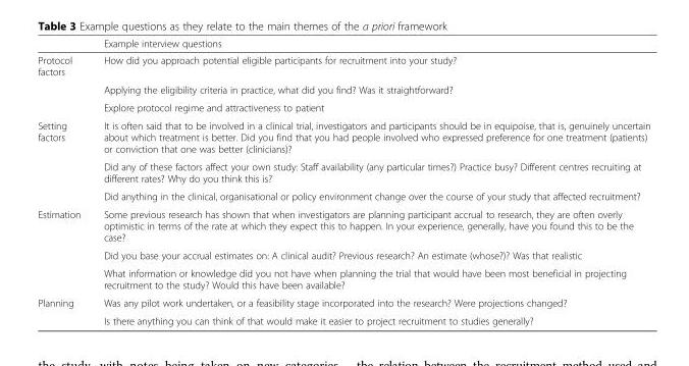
<table><thead><tr><td></td><td>Example interview questions</td></tr></thead><tbody><tr><td rowspan="3">Protocol factors</td><td>How did you approach potential eligible participants for recruitment into your study?</td></tr><tr><td>Applying the eligibility criteria in practice, what did you find? Was it straightforward?</td></tr><tr><td>Explore protocol regime and attractiveness to patient</td></tr><tr><td rowspan="3">Setting factors</td><td>It is often said that to be involved in a clinical trial, investigators and participants should be in equipoise, that is, genuinely uncertain about which treatment is better. Did you find that you had people involved who expressed preference for one treatment (patients) or conviction that one was better (clinicians)?</td></tr><tr><td>Did any of these factors affect your own study: Staff availability (any particular times?) Practice busy? Different centres recruiting at different rates? Why do you think this is?</td></tr><tr><td>Did anything in the clinical, organisational or policy environment change over the course of your study that affected recruitment?</td></tr><tr><td rowspan="3">Estimation</td><td>Some previous research has shown that when investigators are planning participant accrual to research, they are often overly optimistic in terms of the rate at which they expect this to happen. In your experience, generally, have you found this to be the case?</td></tr><tr><td>Did you base your accrual estimates on: A clinical audit? Previous research? An estimate (whose?)? Was that realistic</td></tr><tr><td>What information or knowledge did you not have when planning the trial that would have been most beneficial in projecting recruitment to the study? Would this have been available?</td></tr><tr><td rowspan="2">Planning</td><td>Was any pilot work undertaken, or a feasibility stage incorporated into the research? Were projections changed?</td></tr><tr><td>Is there anything you can think of that would make it easier to project recruitment to studies generally?</td></tr></tbody></table>